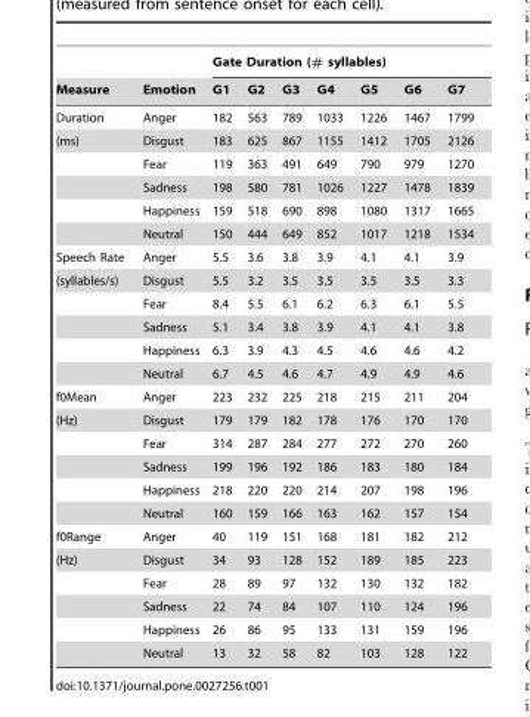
<table><thead><tr><td rowspan="2">Measure</td><td rowspan="2">Emotion</td><td colspan="7">Gate Duration (# syllables)</td></tr><tr><td>G1</td><td>G2</td><td>G3</td><td>G4</td><td>G5</td><td>G6</td><td>G7</td></tr></thead><tbody><tr><td>Duration</td><td>Anger</td><td>182</td><td>563</td><td>789</td><td>1033</td><td>1226</td><td>1467</td><td>1799</td></tr><tr><td rowspan="5">(ms)</td><td>Disgust</td><td>183</td><td>625</td><td>867</td><td>1155</td><td>1412</td><td>1705</td><td>2126</td></tr><tr><td>Fear</td><td>119</td><td>363</td><td>491</td><td>649</td><td>790</td><td>979</td><td>1270</td></tr><tr><td>Sadness</td><td>198</td><td>580</td><td>781</td><td>1026</td><td>1227</td><td>1478</td><td>1839</td></tr><tr><td>Happiness</td><td>159</td><td>518</td><td>690</td><td>898</td><td>1080</td><td>1317</td><td>1665</td></tr><tr><td>Neutral</td><td>150</td><td>444</td><td>649</td><td>852</td><td>1017</td><td>1218</td><td>1534</td></tr><tr><td>Speech Rate</td><td>Anger</td><td>5.5</td><td>3.6</td><td>3.8</td><td>3.9</td><td>4.1</td><td>4.1</td><td>3.9</td></tr><tr><td rowspan="5">(syllables/s)</td><td>Disgust</td><td>5.5</td><td>3.2</td><td>3.5</td><td>3.5</td><td>3.5</td><td>3.5</td><td>3.3</td></tr><tr><td>Fear</td><td>8.4</td><td>5.5</td><td>6.1</td><td>6.2</td><td>6.3</td><td>6.1</td><td>5.5</td></tr><tr><td>Sadness</td><td>5.1</td><td>3.4</td><td>3.8</td><td>3.9</td><td>4.1</td><td>4.1</td><td>3.8</td></tr><tr><td>Happiness</td><td>6.3</td><td>3.9</td><td>4.3</td><td>4.5</td><td>4.6</td><td>4.6</td><td>4.2</td></tr><tr><td>Neutral</td><td>6.7</td><td>4.5</td><td>4.6</td><td>4.7</td><td>4.9</td><td>4.9</td><td>4.6</td></tr><tr><td>f0Mean</td><td>Anger</td><td>223</td><td>232</td><td>225</td><td>218</td><td>215</td><td>211</td><td>204</td></tr><tr><td rowspan="5">(Hz)</td><td>Disgust</td><td>179</td><td>179</td><td>182</td><td>178</td><td>176</td><td>170</td><td>170</td></tr><tr><td>Fear</td><td>314</td><td>287</td><td>284</td><td>277</td><td>272</td><td>270</td><td>260</td></tr><tr><td>Sadness</td><td>199</td><td>196</td><td>192</td><td>186</td><td>183</td><td>180</td><td>184</td></tr><tr><td>Happiness</td><td>218</td><td>220</td><td>220</td><td>214</td><td>207</td><td>198</td><td>196</td></tr><tr><td>Neutral</td><td>160</td><td>159</td><td>166</td><td>163</td><td>162</td><td>157</td><td>154</td></tr><tr><td>f0Range</td><td>Anger</td><td>40</td><td>119</td><td>151</td><td>168</td><td>181</td><td>182</td><td>212</td></tr><tr><td rowspan="5">(Hz)</td><td>Disgust</td><td>34</td><td>93</td><td>128</td><td>152</td><td>189</td><td>185</td><td>223</td></tr><tr><td>Fear</td><td>28</td><td>89</td><td>97</td><td>132</td><td>130</td><td>132</td><td>182</td></tr><tr><td>Sadness</td><td>22</td><td>74</td><td>84</td><td>107</td><td>110</td><td>124</td><td>196</td></tr><tr><td>Happiness</td><td>26</td><td>86</td><td>95</td><td>133</td><td>131</td><td>159</td><td>196</td></tr><tr><td>Neutral</td><td>13</td><td>32</td><td>58</td><td>82</td><td>103</td><td>128</td><td>122</td></tr></tbody></table>